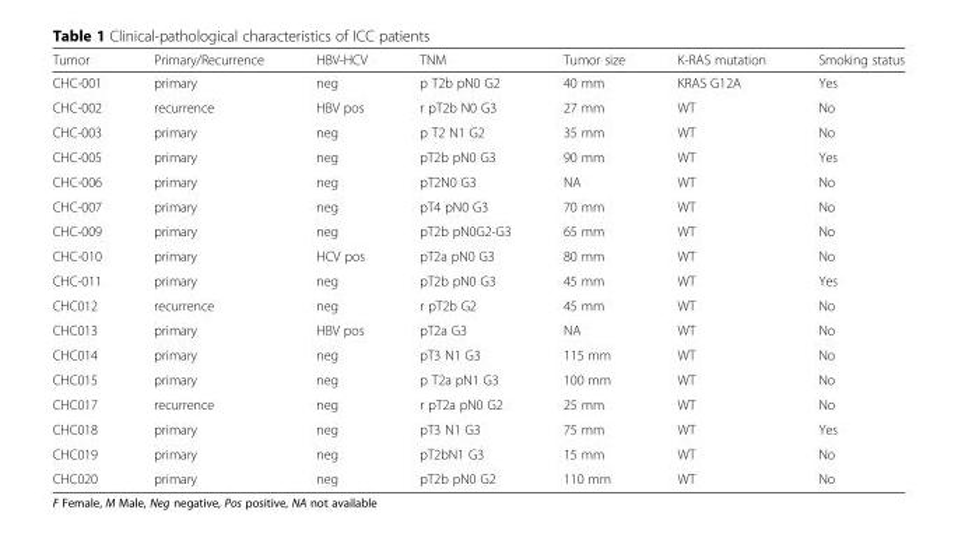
<table><thead><tr><td>Tumor</td><td>Primary/Recurrence</td><td>HBV-HCV</td><td>TNM</td><td>Tumor size</td><td>K-RAS mutation</td><td>Smoking status</td></tr></thead><tbody><tr><td>CHC-001</td><td>primary</td><td>neg</td><td>p T2b pN0 G2</td><td>40 mm</td><td>KRAS G12A</td><td>Yes</td></tr><tr><td>CHC-002</td><td>recurrence</td><td>HBV pos</td><td>r pT2b N0 G3</td><td>27 mm</td><td>WT</td><td>No</td></tr><tr><td>CHC-003</td><td>primary</td><td>neg</td><td>p T2 N1 G2</td><td>35 mm</td><td>WT</td><td>No</td></tr><tr><td>CHC-005</td><td>primary</td><td>neg</td><td>pT2b pN0 G3</td><td>90 mm</td><td>WT</td><td>Yes</td></tr><tr><td>CHC-006</td><td>primary</td><td>neg</td><td>pT2N0 G3</td><td>NA</td><td>WT</td><td>No</td></tr><tr><td>CHC-007</td><td>primary</td><td>neg</td><td>pT4 pN0 G3</td><td>70 mm</td><td>WT</td><td>No</td></tr><tr><td>CHC-009</td><td>primary</td><td>neg</td><td>pT2b pN0G2-G3</td><td>65 mm</td><td>WT</td><td>No</td></tr><tr><td>CHC-010</td><td>primary</td><td>HCV pos</td><td>pT2a pN0 G3</td><td>80 mm</td><td>WT</td><td>No</td></tr><tr><td>CHC-011</td><td>primary</td><td>neg</td><td>pT2b pN0 G3</td><td>45 mm</td><td>WT</td><td>Yes</td></tr><tr><td>CHC012</td><td>recurrence</td><td>neg</td><td>r pT2b G2</td><td>45 mm</td><td>WT</td><td>No</td></tr><tr><td>CHC013</td><td>primary</td><td>HBV pos</td><td>pT2a G3</td><td>NA</td><td>WT</td><td>No</td></tr><tr><td>CHC014</td><td>primary</td><td>neg</td><td>pT3 N1 G3</td><td>115 mm</td><td>WT</td><td>No</td></tr><tr><td>CHC015</td><td>primary</td><td>neg</td><td>p T2a pN1 G3</td><td>100 mm</td><td>WT</td><td>No</td></tr><tr><td>CHC017</td><td>recurrence</td><td>neg</td><td>r pT2a pN0 G2</td><td>25 mm</td><td>WT</td><td>No</td></tr><tr><td>CHC018</td><td>primary</td><td>neg</td><td>pT3 N1 G3</td><td>75 mm</td><td>WT</td><td>Yes</td></tr><tr><td>CHC019</td><td>primary</td><td>neg</td><td>pT2bN1 G3</td><td>15 mm</td><td>WT</td><td>No</td></tr><tr><td>CHC020</td><td>primary</td><td>neg</td><td>pT2b pN0 G2</td><td>110 mm</td><td>WT</td><td>No</td></tr></tbody></table>